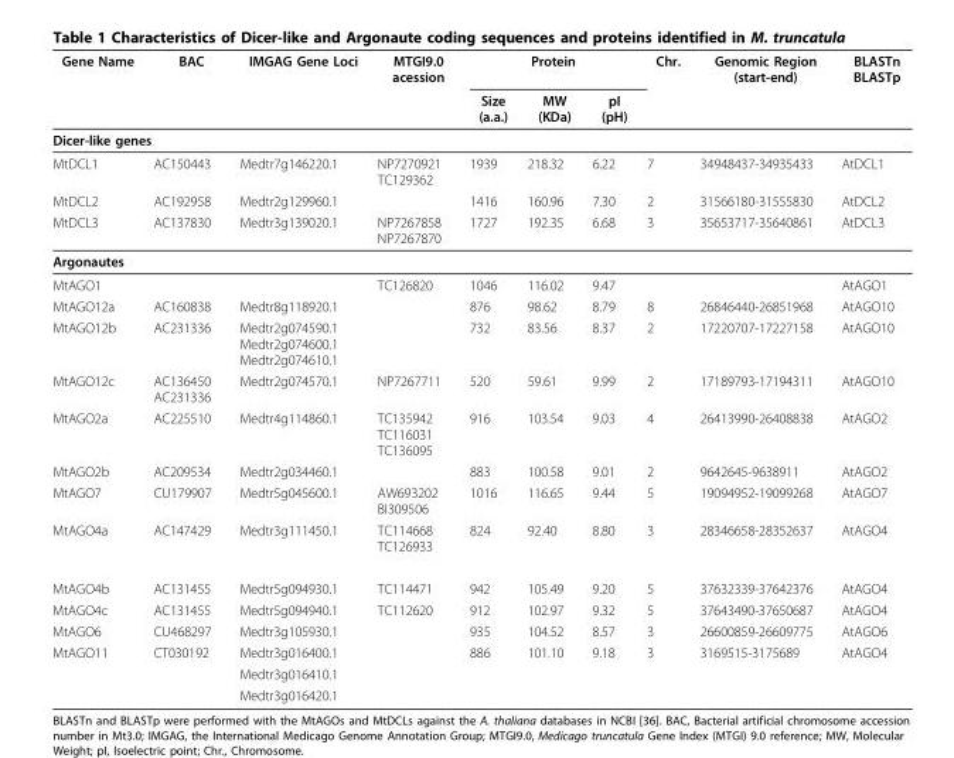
<table><thead><tr><td rowspan="2">Gene Name</td><td rowspan="2">BAC</td><td rowspan="2">IMGAG Gene Loci</td><td rowspan="2">MTGI9.0 acession</td><td colspan="3">Protein</td><td rowspan="2">Chr.</td><td rowspan="2">Genomic Region (start-end)</td><td rowspan="2">BLASTn BLASTp</td></tr><tr><td>Size (a.a.)</td><td>MW (KDa)</td><td>pI (pH)</td></tr></thead><tbody><tr><td colspan="10">Dicer-like genes</td></tr><tr><td>MtDCL1</td><td>AC150443</td><td>Medtr7g146220.1</td><td>NP7270921 TC129362</td><td>1939</td><td>218.32</td><td>6.22</td><td>7</td><td>34948437-34935433</td><td>AtDCL1</td></tr><tr><td>MtDCL2</td><td>AC192958</td><td>Medtr2g129960.1</td><td></td><td>1416</td><td>160.96</td><td>7.30</td><td>2</td><td>31566180-31555830</td><td>AtDCL2</td></tr><tr><td>MtDCL3</td><td>AC137830</td><td>Medtr3g139020.1</td><td>NP7267858 NP7267870</td><td>1727</td><td>192.35</td><td>6.68</td><td>3</td><td>35653717-35640861</td><td>AtDCL3</td></tr><tr><td colspan="10">Argonautes</td></tr><tr><td>MtAGO1</td><td></td><td></td><td>TC126820</td><td>1046</td><td>116.02</td><td>9.47</td><td></td><td></td><td>AtAGO1</td></tr><tr><td>MtAGO12a</td><td>AC160838</td><td>Medtr8g118920.1</td><td></td><td>876</td><td>98.62</td><td>8.79</td><td>8</td><td>26846440-26851968</td><td>AtAGO10</td></tr><tr><td>MtAGO12b</td><td>AC231336</td><td>Medtr2g074590.1 Medtr2g074600.1 Medtr2g074610.1</td><td></td><td>732</td><td>83.56</td><td>8.37</td><td>2</td><td>17220707-17227158</td><td>AtAGO10</td></tr><tr><td>MtAGO12c</td><td>AC136450 AC231336</td><td>Medtr2g074570.1</td><td>NP7267711</td><td>520</td><td>59.61</td><td>9.99</td><td>2</td><td>17189793-17194311</td><td>AtAGO10</td></tr><tr><td>MtAGO2a</td><td>AC225510</td><td>Medtr4g114860.1</td><td>TC135942 TC116031 TC136095</td><td>916</td><td>103.54</td><td>9.03</td><td>4</td><td>26413990-26408838</td><td>AtAGO2</td></tr><tr><td>MtAGO2b</td><td>AC209534</td><td>Medtr2g034460.1</td><td></td><td>883</td><td>100.58</td><td>9.01</td><td>2</td><td>9642645-9638911</td><td>AtAGO2</td></tr><tr><td>MtAGO7</td><td>CU179907</td><td>Medtr5g045600.1</td><td>AW693202 BI309506</td><td>1016</td><td>116.65</td><td>9.44</td><td>5</td><td>19094952-19099268</td><td>AtAGO7</td></tr><tr><td>MtAGO4a</td><td>AC147429</td><td>Medtr3g111450.1</td><td>TC114668 TC126933</td><td>824</td><td>92.40</td><td>8.80</td><td>3</td><td>28346658-28352637</td><td>AtAGO4</td></tr><tr><td>MtAGO4b</td><td>AC131455</td><td>Medtr5g094930.1</td><td>TC114471</td><td>942</td><td>105.49</td><td>9.20</td><td>5</td><td>37632339-37642376</td><td>AtAGO4</td></tr><tr><td>MtAGO4c</td><td>AC131455</td><td>Medtr5g094940.1</td><td>TC112620</td><td>912</td><td>102.97</td><td>9.32</td><td>5</td><td>37643490-37650687</td><td>AtAGO4</td></tr><tr><td>MtAGO6</td><td>CU468297</td><td>Medtr3g105930.1</td><td></td><td>935</td><td>104.52</td><td>8.57</td><td>3</td><td>26600859-26609775</td><td>AtAGO6</td></tr><tr><td rowspan="3">MtAGO11</td><td>CT030192</td><td>Medtr3g016400.1</td><td></td><td>886</td><td>101.10</td><td>9.18</td><td>3</td><td>3169515-3175689</td><td>AtAGO4</td></tr><tr><td></td><td>Medtr3g016410.1</td><td></td><td></td><td></td><td></td><td></td><td></td><td></td></tr><tr><td></td><td>Medtr3g016420.1</td><td></td><td></td><td></td><td></td><td></td><td></td><td></td></tr></tbody></table>